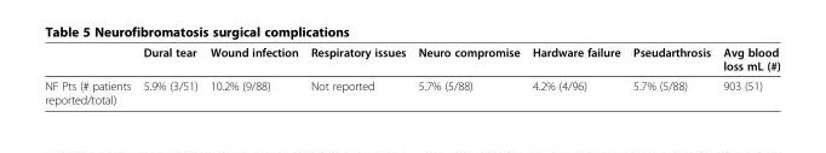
<table><thead><tr><td></td><td>Dural tear</td><td>Wound infection</td><td>Respiratory issues</td><td>Neuro compromise</td><td>Hardware failure</td><td>Pseudarthrosis</td><td>Avg blood loss mL (#)</td></tr></thead><tbody><tr><td>NF Pts (# patients reported/total)</td><td>5.9% (3/51)</td><td>10.2% (9/88)</td><td>Not reported</td><td>5.7% (5/88)</td><td>4.2% (4/96)</td><td>5.7% (5/88)</td><td>903 (51)</td></tr></tbody></table>